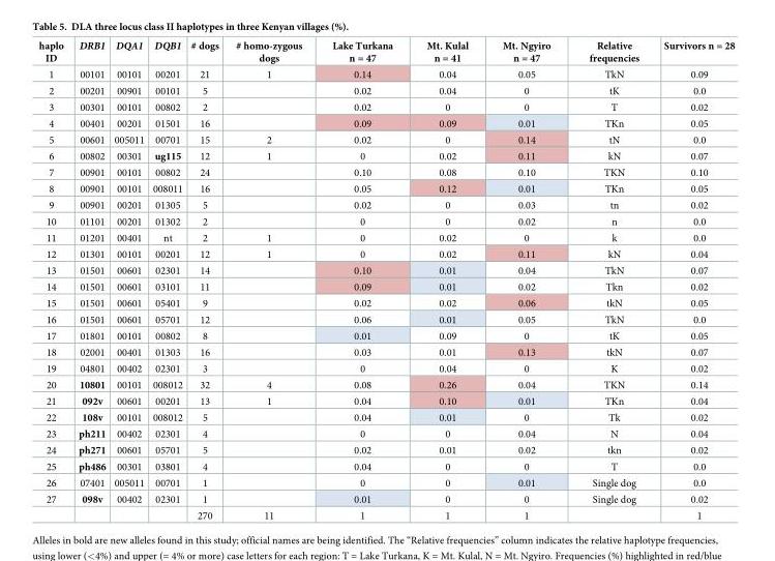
<table><thead><tr><td>haplo ID</td><td>DRB1</td><td>DQA1</td><td>DQB1</td><td># dogs</td><td># homo-zygous dogs</td><td>Lake Turkana n = 47</td><td>Mt. Kulal n = 41</td><td>Mt. Ngyiro n = 47</td><td>Relative frequencies</td><td>Survivors n = 28</td></tr></thead><tbody><tr><td>1</td><td>00101</td><td>00101</td><td>00201</td><td>21</td><td>1</td><td>0.14</td><td>0.04</td><td>0.05</td><td>TkN</td><td>0.09</td></tr><tr><td>2</td><td>00201</td><td>00901</td><td>00101</td><td>5</td><td></td><td>0.02</td><td>0.04</td><td>0</td><td>tK</td><td>0.0</td></tr><tr><td>3</td><td>00301</td><td>00101</td><td>00802</td><td>2</td><td></td><td>0.02</td><td>0</td><td>0</td><td>T</td><td>0.02</td></tr><tr><td>4</td><td>00401</td><td>00201</td><td>01501</td><td>16</td><td></td><td>0.09</td><td>0.09</td><td>0.01</td><td>TKn</td><td>0.05</td></tr><tr><td>5</td><td>00601</td><td>005011</td><td>00701</td><td>15</td><td>2</td><td>0.02</td><td>0</td><td>0.14</td><td>tN</td><td>0.0</td></tr><tr><td>6</td><td>00802</td><td>00301</td><td>ug115</td><td>12</td><td>1</td><td>0</td><td>0.02</td><td>0.11</td><td>kN</td><td>0.07</td></tr><tr><td>7</td><td>00901</td><td>00101</td><td>00802</td><td>24</td><td></td><td>0.10</td><td>0.08</td><td>0.10</td><td>TKN</td><td>0.10</td></tr><tr><td>8</td><td>00901</td><td>00101</td><td>008011</td><td>16</td><td></td><td>0.05</td><td>0.12</td><td>0.01</td><td>TKn</td><td>0.05</td></tr><tr><td>9</td><td>00901</td><td>00201</td><td>01305</td><td>5</td><td></td><td>0.02</td><td>0</td><td>0.03</td><td>tn</td><td>0.02</td></tr><tr><td>10</td><td>01101</td><td>00201</td><td>01302</td><td>2</td><td></td><td>0</td><td>0</td><td>0.02</td><td>n</td><td>0.0</td></tr><tr><td>11</td><td>01201</td><td>00401</td><td>nt</td><td>2</td><td>1</td><td>0</td><td>0.02</td><td>0</td><td>k</td><td>0.0</td></tr><tr><td>12</td><td>01301</td><td>00101</td><td>00201</td><td>12</td><td>1</td><td>0</td><td>0.02</td><td>0.11</td><td>kN</td><td>0.04</td></tr><tr><td>13</td><td>01501</td><td>00601</td><td>02301</td><td>14</td><td></td><td>0.10</td><td>0.01</td><td>0.04</td><td>TkN</td><td>0.07</td></tr><tr><td>14</td><td>01501</td><td>00601</td><td>03101</td><td>11</td><td></td><td>0.09</td><td>0.01</td><td>0.02</td><td>Tkn</td><td>0.02</td></tr><tr><td>15</td><td>01501</td><td>00601</td><td>05401</td><td>9</td><td></td><td>0.02</td><td>0.02</td><td>0.06</td><td>tkN</td><td>0.05</td></tr><tr><td>16</td><td>01501</td><td>00601</td><td>05701</td><td>12</td><td></td><td>0.06</td><td>0.01</td><td>0.05</td><td>TkN</td><td>0.0</td></tr><tr><td>17</td><td>01801</td><td>00101</td><td>00802</td><td>8</td><td></td><td>0.01</td><td>0.09</td><td>0</td><td>tK</td><td>0.05</td></tr><tr><td>18</td><td>02001</td><td>00401</td><td>01303</td><td>16</td><td></td><td>0.03</td><td>0.01</td><td>0.13</td><td>tkN</td><td>0.07</td></tr><tr><td>19</td><td>04801</td><td>00402</td><td>02301</td><td>3</td><td></td><td>0</td><td>0.04</td><td>0</td><td>K</td><td>0.02</td></tr><tr><td>20</td><td>10801</td><td>00101</td><td>008012</td><td>32</td><td>4</td><td>0.08</td><td>0.26</td><td>0.04</td><td>TKN</td><td>0.14</td></tr><tr><td>21</td><td>092v</td><td>00601</td><td>00201</td><td>13</td><td>1</td><td>0.04</td><td>0.10</td><td>0.01</td><td>TKn</td><td>0.04</td></tr><tr><td>22</td><td>108v</td><td>00101</td><td>008012</td><td>5</td><td></td><td>0.04</td><td>0.01</td><td>0</td><td>Tk</td><td>0.02</td></tr><tr><td>23</td><td>ph211</td><td>00402</td><td>02301</td><td>4</td><td></td><td>0</td><td>0</td><td>0.04</td><td>N</td><td>0.04</td></tr><tr><td>24</td><td>ph271</td><td>00601</td><td>05701</td><td>5</td><td></td><td>0.02</td><td>0.01</td><td>0.02</td><td>tkn</td><td>0.02</td></tr><tr><td>25</td><td>ph486</td><td>00301</td><td>03801</td><td>4</td><td></td><td>0.04</td><td>0</td><td>0</td><td>T</td><td>0.0</td></tr><tr><td>26</td><td>07401</td><td>005011</td><td>00701</td><td>1</td><td></td><td>0</td><td>0</td><td>0.01</td><td>Single dog</td><td>0.0</td></tr><tr><td rowspan="2">27</td><td>098v</td><td>00402</td><td>02301</td><td>1</td><td></td><td>0.01</td><td>0</td><td>0</td><td>Single dog</td><td>0.02</td></tr><tr><td></td><td></td><td></td><td>270</td><td>11</td><td>1</td><td>1</td><td>1</td><td></td><td>1</td></tr></tbody></table>